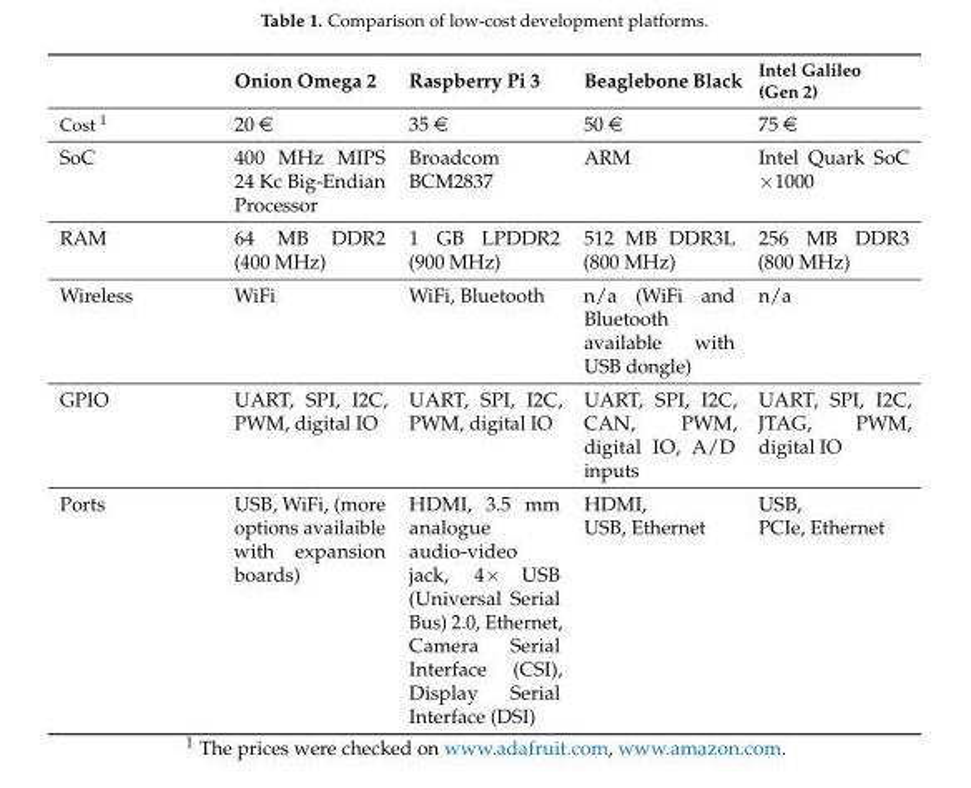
<table><thead><tr><td></td><td>Onion Omega 2</td><td>Raspberry Pi 3</td><td>Beaglebone Black</td><td>Intel Galileo (Gen 2)</td></tr></thead><tbody><tr><td>Cost <sup>1</sup></td><td>20 €</td><td>35 €</td><td>50 €</td><td>75 €</td></tr><tr><td>SoC</td><td>400 MHz MIPS 24 Kc Big-Endian Processor</td><td>Broadcom BCM2837</td><td>ARM</td><td>Intel Quark SoC ×1000</td></tr><tr><td>RAM</td><td>64 MB DDR2 (400 MHz)</td><td>1 GB LPDDR2 (900 MHz)</td><td>512 MB DDR3L (800 MHz)</td><td>256 MB DDR3 (800 MHz)</td></tr><tr><td>Wireless</td><td>WiFi</td><td>WiFi, Bluetooth</td><td>n/a (WiFi and Bluetooth available with USB dongle)</td><td>n/a</td></tr><tr><td>GPIO</td><td>UART, SPI, I2C, PWM, digital IO</td><td>UART, SPI, I2C, PWM, digital IO</td><td>UART, SPI, I2C, CAN, PWM, digital IO, A/D inputs</td><td>UART, SPI, I2C, JTAG, PWM, digital IO</td></tr><tr><td>Ports</td><td>USB, WiFi, (more options availaible with expansion boards)</td><td>HDMI, 3.5 mm analogue audio-video jack, 4× USB (Universal Serial Bus) 2.0, Ethernet, Camera Serial Interface (CSI), Display Serial Interface (DSI)</td><td>HDMI, USB, Ethernet</td><td>USB, PCIe, Ethernet</td></tr></tbody></table>